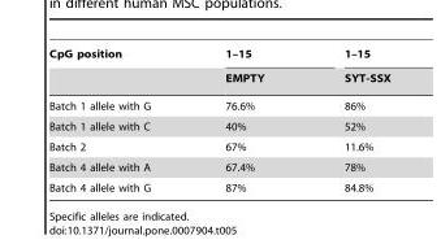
<table><thead><tr><td rowspan="2">CpG position</td><td rowspan="2">1–15 EMPTY</td><td rowspan="2">1–15 SYT-SSX</td></tr><tr></tr></thead><tbody><tr><td>Batch 1 allele with G</td><td>76.6%</td><td>86%</td></tr><tr><td>Batch 1 allele with C</td><td>40%</td><td>52%</td></tr><tr><td>Batch 2</td><td>67%</td><td>11.6%</td></tr><tr><td>Batch 4 allele with A</td><td>67.4%</td><td>78%</td></tr><tr><td>Batch 4 allele with G</td><td>87%</td><td>84.8%</td></tr></tbody></table>